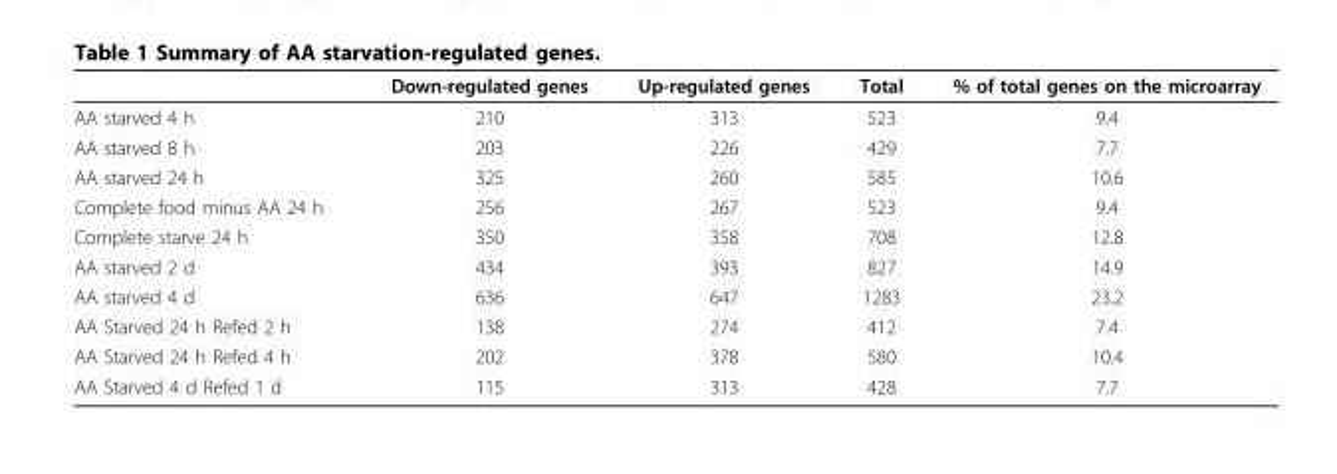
<table><thead><tr><td></td><td>Down-regulated genes</td><td>Up-regulated genes</td><td>Total</td><td>% of total genes on the microarray</td></tr></thead><tbody><tr><td>AA starved 4 h</td><td>210</td><td>313</td><td>523</td><td>9.4</td></tr><tr><td>AA starved 8 h</td><td>203</td><td>226</td><td>429</td><td>7.7</td></tr><tr><td>AA starved 24 h</td><td>325</td><td>260</td><td>585</td><td>10.6</td></tr><tr><td>Complete food minus AA 24 h</td><td>256</td><td>267</td><td>523</td><td>9.4</td></tr><tr><td>Complete starve 24 h</td><td>350</td><td>358</td><td>708</td><td>12.8</td></tr><tr><td>AA starved 2 d</td><td>434</td><td>393</td><td>827</td><td>14.9</td></tr><tr><td>AA starved 4 d</td><td>636</td><td>647</td><td>1283</td><td>23.2</td></tr><tr><td>AA Starved 24 h Refed 2 h</td><td>138</td><td>274</td><td>412</td><td>7.4</td></tr><tr><td>AA Starved 24 h Refed 4 h</td><td>202</td><td>378</td><td>580</td><td>10.4</td></tr><tr><td>AA Starved 4 d Refed 1 d</td><td>115</td><td>313</td><td>428</td><td>7.7</td></tr></tbody></table>